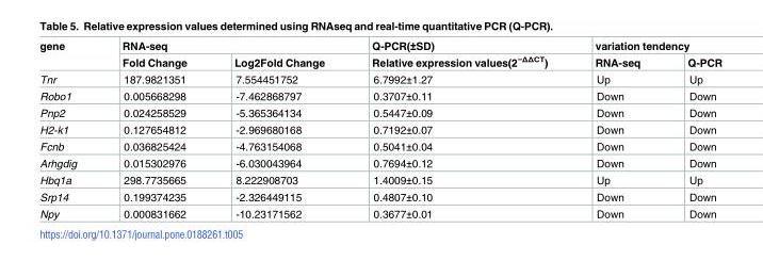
<table><thead><tr><td rowspan="2">gene</td><td colspan="2">RNA-seq</td><td rowspan="2">Q-PCR(±SD) Relative expression values(2<sup>−ΔΔCT</sup>)</td><td colspan="2">variation tendency</td></tr><tr><td>Fold Change</td><td>Log2Fold Change</td><td>RNA-seq</td><td>Q-PCR</td></tr></thead><tbody><tr><td>Tnr</td><td>187.9821351</td><td>7.554451752</td><td>6.7992±1.27</td><td>Up</td><td>Up</td></tr><tr><td>Robo1</td><td>0.005668298</td><td>-7.462868797</td><td>0.3707±0.11</td><td>Down</td><td>Down</td></tr><tr><td>Pnp2</td><td>0.024258529</td><td>-5.365364134</td><td>0.5447±0.09</td><td>Down</td><td>Down</td></tr><tr><td>H2-k1</td><td>0.127654812</td><td>-2.969680168</td><td>0.7192±0.07</td><td>Down</td><td>Down</td></tr><tr><td>Fcnb</td><td>0.036825424</td><td>-4.763154068</td><td>0.5041±0.04</td><td>Down</td><td>Down</td></tr><tr><td>Arhgdig</td><td>0.015302976</td><td>-6.030043964</td><td>0.7694±0.12</td><td>Down</td><td>Down</td></tr><tr><td>Hbq1a</td><td>298.7735665</td><td>8.222908703</td><td>1.4009±0.15</td><td>Up</td><td>Up</td></tr><tr><td>Srp14</td><td>0.199374235</td><td>-2.326449115</td><td>0.4807±0.10</td><td>Down</td><td>Down</td></tr><tr><td>Npy</td><td>0.000831662</td><td>-10.23171562</td><td>0.3677±0.01</td><td>Down</td><td>Down</td></tr></tbody></table>